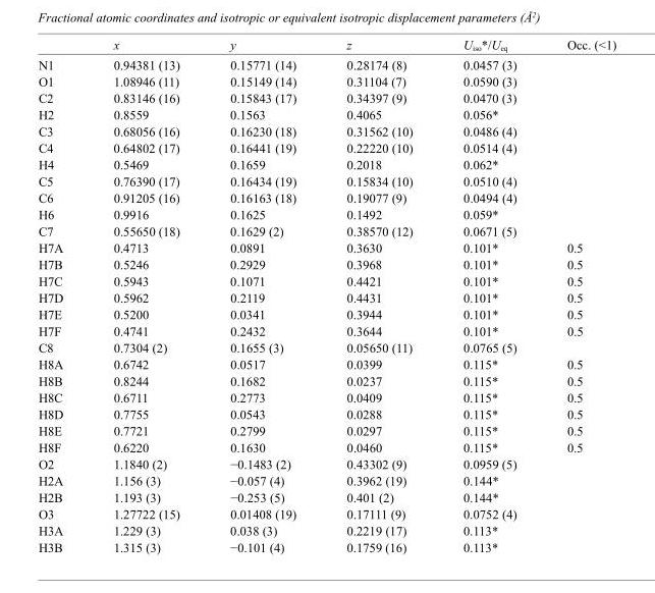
<table><thead><tr><td></td><td>x</td><td>y</td><td>z</td><td>U<sub>iso</sub>*/U<sub>eq</sub></td><td>Occ. (&lt;1)</td></tr></thead><tbody><tr><td>N1</td><td>0.94381 (13)</td><td>0.15771 (14)</td><td>0.28174 (8)</td><td>0.0457 (3)</td><td></td></tr><tr><td>O1</td><td>1.08946 (11)</td><td>0.15149 (14)</td><td>0.31104 (7)</td><td>0.0590 (3)</td><td></td></tr><tr><td>C2</td><td>0.83146 (16)</td><td>0.15843 (17)</td><td>0.34397 (9)</td><td>0.0470 (3)</td><td></td></tr><tr><td>H2</td><td>0.8559</td><td>0.1563</td><td>0.4065</td><td>0.056*</td><td></td></tr><tr><td>C3</td><td>0.68056 (16)</td><td>0.16230 (18)</td><td>0.31562 (10)</td><td>0.0486 (4)</td><td></td></tr><tr><td>C4</td><td>0.64802 (17)</td><td>0.16441 (19)</td><td>0.22220 (10)</td><td>0.0514 (4)</td><td></td></tr><tr><td>H4</td><td>0.5469</td><td>0.1659</td><td>0.2018</td><td>0.062*</td><td></td></tr><tr><td>C5</td><td>0.76390 (17)</td><td>0.16434 (19)</td><td>0.15834 (10)</td><td>0.0510 (4)</td><td></td></tr><tr><td>C6</td><td>0.91205 (16)</td><td>0.16163 (18)</td><td>0.19077 (9)</td><td>0.0494 (4)</td><td></td></tr><tr><td>H6</td><td>0.9916</td><td>0.1625</td><td>0.1492</td><td>0.059*</td><td></td></tr><tr><td>C7</td><td>0.55650 (18)</td><td>0.1629 (2)</td><td>0.38570 (12)</td><td>0.0671 (5)</td><td></td></tr><tr><td>H7A</td><td>0.4713</td><td>0.0891</td><td>0.3630</td><td>0.101*</td><td>0.5</td></tr><tr><td>H7B</td><td>0.5246</td><td>0.2929</td><td>0.3968</td><td>0.101*</td><td>0.5</td></tr><tr><td>H7C</td><td>0.5943</td><td>0.1071</td><td>0.4421</td><td>0.101*</td><td>0.5</td></tr><tr><td>H7D</td><td>0.5962</td><td>0.2119</td><td>0.4431</td><td>0.101*</td><td>0.5</td></tr><tr><td>H7E</td><td>0.5200</td><td>0.0341</td><td>0.3944</td><td>0.101*</td><td>0.5</td></tr><tr><td>H7F</td><td>0.4741</td><td>0.2432</td><td>0.3644</td><td>0.101*</td><td>0.5</td></tr><tr><td>C8</td><td>0.7304 (2)</td><td>0.1655 (3)</td><td>0.05650 (11)</td><td>0.0765 (5)</td><td></td></tr><tr><td>H8A</td><td>0.6742</td><td>0.0517</td><td>0.0399</td><td>0.115*</td><td>0.5</td></tr><tr><td>H8B</td><td>0.8244</td><td>0.1682</td><td>0.0237</td><td>0.115*</td><td>0.5</td></tr><tr><td>H8C</td><td>0.6711</td><td>0.2773</td><td>0.0409</td><td>0.115*</td><td>0.5</td></tr><tr><td>H8D</td><td>0.7755</td><td>0.0543</td><td>0.0288</td><td>0.115*</td><td>0.5</td></tr><tr><td>H8E</td><td>0.7721</td><td>0.2799</td><td>0.0297</td><td>0.115*</td><td>0.5</td></tr><tr><td>H8F</td><td>0.6220</td><td>0.1630</td><td>0.0460</td><td>0.115*</td><td>0.5</td></tr><tr><td>O2</td><td>1.1840 (2)</td><td>−0.1483 (2)</td><td>0.43302 (9)</td><td>0.0959 (5)</td><td></td></tr><tr><td>H2A</td><td>1.156 (3)</td><td>−0.057 (4)</td><td>0.3962 (19)</td><td>0.144*</td><td></td></tr><tr><td>H2B</td><td>1.193 (3)</td><td>−0.253 (5)</td><td>0.401 (2)</td><td>0.144*</td><td></td></tr><tr><td>O3</td><td>1.27722 (15)</td><td>0.01408 (19)</td><td>0.17111 (9)</td><td>0.0752 (4)</td><td></td></tr><tr><td>H3A</td><td>1.229 (3)</td><td>0.038 (3)</td><td>0.2219 (17)</td><td>0.113*</td><td></td></tr><tr><td>H3B</td><td>1.315 (3)</td><td>−0.101 (4)</td><td>0.1759 (16)</td><td>0.113*</td><td></td></tr></tbody></table>